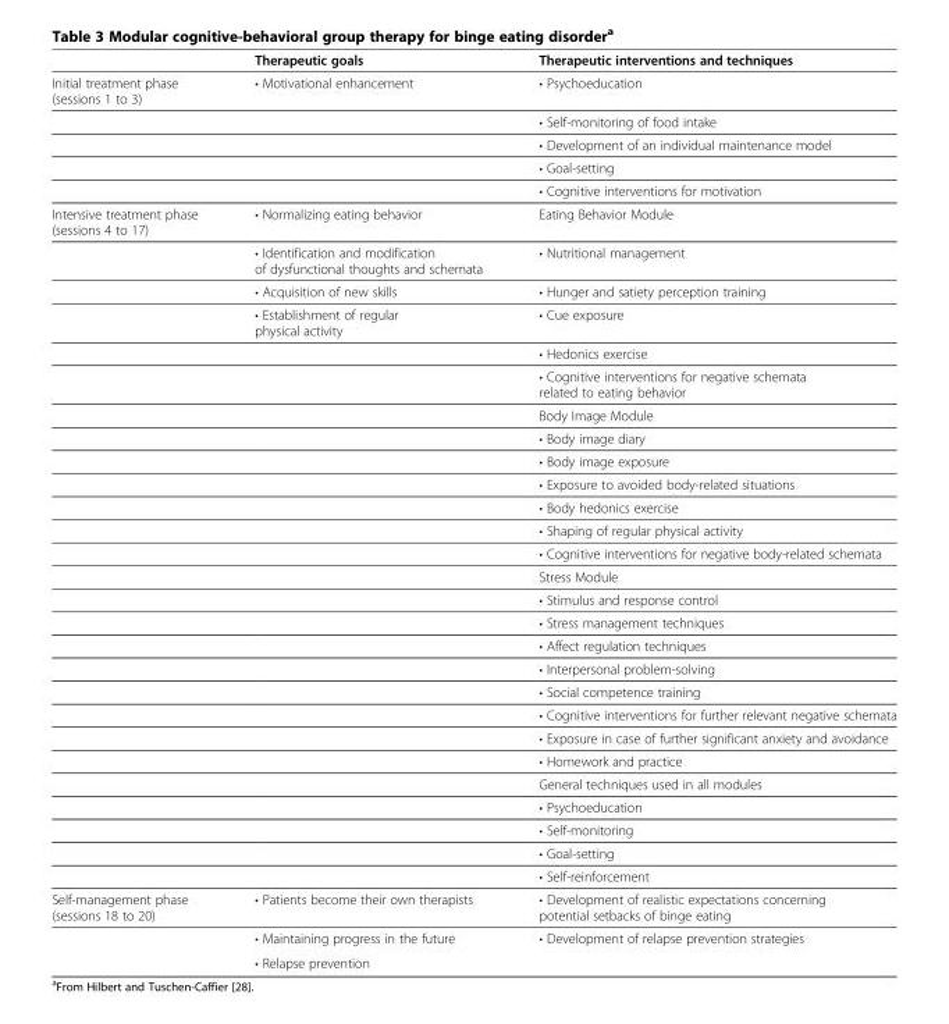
<table><thead><tr><td></td><td>Therapeutic goals</td><td>Therapeutic interventions and techniques</td></tr></thead><tbody><tr><td rowspan="5">Initial treatment phase (sessions 1 to 3)</td><td>• Motivational enhancement</td><td>• Psychoeducation</td></tr><tr><td></td><td>• Self-monitoring of food intake</td></tr><tr><td></td><td>• Development of an individual maintenance model</td></tr><tr><td></td><td>• Goal-setting</td></tr><tr><td></td><td>• Cognitive interventions for motivation</td></tr><tr><td rowspan="27">Intensive treatment phase (sessions 4 to 17)</td><td>• Normalizing eating behavior</td><td>Eating Behavior Module</td></tr><tr><td>• Identification and modification of dysfunctional thoughts and schemata</td><td>• Nutritional management</td></tr><tr><td>• Acquisition of new skills</td><td>• Hunger and satiety perception training</td></tr><tr><td>• Establishment of regular physical activity</td><td>• Cue exposure</td></tr><tr><td></td><td>• Hedonics exercise</td></tr><tr><td></td><td>• Cognitive interventions for negative schemata related to eating behavior</td></tr><tr><td></td><td>Body Image Module</td></tr><tr><td></td><td>• Body image diary</td></tr><tr><td></td><td>• Body image exposure</td></tr><tr><td></td><td>• Exposure to avoided body-related situations</td></tr><tr><td></td><td>• Body hedonics exercise</td></tr><tr><td></td><td>• Shaping of regular physical activity</td></tr><tr><td></td><td>• Cognitive interventions for negative body-related schemata</td></tr><tr><td></td><td>Stress Module</td></tr><tr><td></td><td>• Stimulus and response control</td></tr><tr><td></td><td>• Stress management techniques</td></tr><tr><td></td><td>• Affect regulation techniques</td></tr><tr><td></td><td>• Interpersonal problem-solving</td></tr><tr><td></td><td>• Social competence training</td></tr><tr><td></td><td>• Cognitive interventions for further relevant negative schemata</td></tr><tr><td></td><td>• Exposure in case of further significant anxiety and avoidance</td></tr><tr><td></td><td>• Homework and practice</td></tr><tr><td></td><td>General techniques used in all modules</td></tr><tr><td></td><td>• Psychoeducation</td></tr><tr><td></td><td>• Self-monitoring</td></tr><tr><td></td><td>• Goal-setting</td></tr><tr><td></td><td>• Self-reinforcement</td></tr><tr><td rowspan="3">Self-management phase (sessions 18 to 20)</td><td>• Patients become their own therapists</td><td>• Development of realistic expectations concerning potential setbacks of binge eating</td></tr><tr><td>• Maintaining progress in the future</td><td>• Development of relapse prevention strategies</td></tr><tr><td>• Relapse prevention</td><td></td></tr></tbody></table>